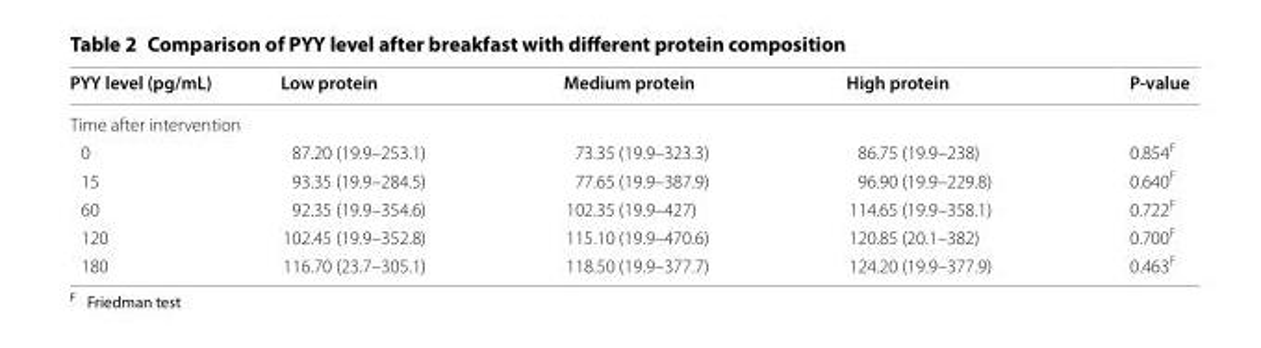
<table><thead><tr><td>PYY level (pg/mL)</td><td>Low protein</td><td>Medium protein</td><td>High protein</td><td>P-value</td></tr></thead><tbody><tr><td colspan="5">Time after intervention</td></tr><tr><td>0</td><td>87.20 (19.9–253.1)</td><td>73.35 (19.9–323.3)</td><td>86.75 (19.9–238)</td><td>0.854<sup>F</sup></td></tr><tr><td>15</td><td>93.35 (19.9–284.5)</td><td>77.65 (19.9–387.9)</td><td>96.90 (19.9–229.8)</td><td>0.640<sup>F</sup></td></tr><tr><td>60</td><td>92.35 (19.9–354.6)</td><td>102.35 (19.9–427)</td><td>114.65 (19.9–358.1)</td><td>0.722<sup>F</sup></td></tr><tr><td>120</td><td>102.45 (19.9–352.8)</td><td>115.10 (19.9–470.6)</td><td>120.85 (20.1–382)</td><td>0.700<sup>F</sup></td></tr><tr><td>180</td><td>116.70 (23.7–305.1)</td><td>118.50 (19.9–377.7)</td><td>124.20 (19.9–377.9)</td><td>0.463<sup>F</sup></td></tr></tbody></table>